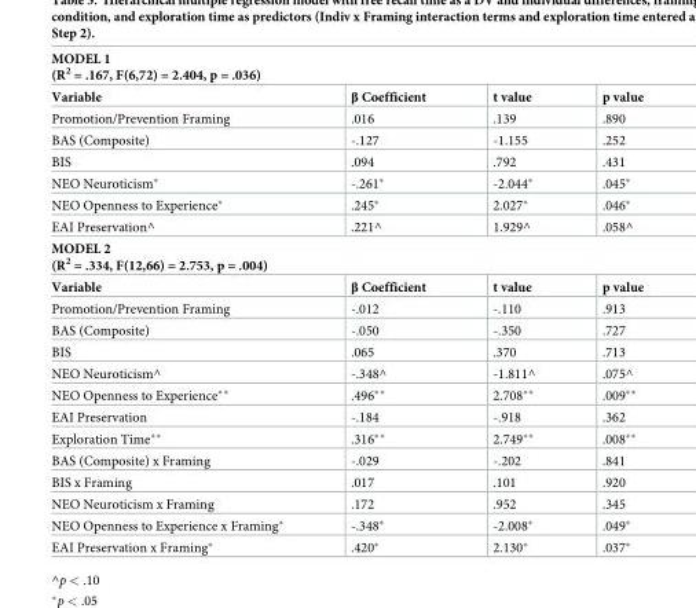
<table><tbody><tr><td colspan="4">MODEL 1 (R<sup>2</sup> = .167, F(6,72) = 2.404, p = .036)</td></tr><tr><td>Variable</td><td>β Coefficient</td><td>t value</td><td>p value</td></tr><tr><td>Promotion/Prevention Framing</td><td>.016</td><td>.139</td><td>.890</td></tr><tr><td>BAS (Composite)</td><td>-.127</td><td>-1.155</td><td>.252</td></tr><tr><td>BIS</td><td>.094</td><td>.792</td><td>.431</td></tr><tr><td>NEO Neuroticism*</td><td>-.261*</td><td>-2.044*</td><td>.045*</td></tr><tr><td>NEO Openness to Experience*</td><td>.245*</td><td>2.027*</td><td>.046*</td></tr><tr><td>EAI Preservation^</td><td>.221^</td><td>1.929^</td><td>.058^</td></tr><tr><td colspan="4">MODEL 2 (R<sup>2</sup> = .334, F(12,66) = 2.753, p = .004)</td></tr><tr><td>Variable</td><td>β Coefficient</td><td>t value</td><td>p value</td></tr><tr><td>Promotion/Prevention Framing</td><td>-.012</td><td>-.110</td><td>.913</td></tr><tr><td>BAS (Composite)</td><td>-.050</td><td>-.350</td><td>.727</td></tr><tr><td>BIS</td><td>.065</td><td>.370</td><td>.713</td></tr><tr><td>NEO Neuroticism^</td><td>-.348^</td><td>-1.811^</td><td>.075^</td></tr><tr><td>NEO Openness to Experience**</td><td>.496**</td><td>2.708**</td><td>.009**</td></tr><tr><td>EAI Preservation</td><td>-.184</td><td>-.918</td><td>.362</td></tr><tr><td>Exploration Time**</td><td>.316**</td><td>2.749**</td><td>.008**</td></tr><tr><td>BAS (Composite) x Framing</td><td>-.029</td><td>-.202</td><td>.841</td></tr><tr><td>BIS x Framing</td><td>.017</td><td>.101</td><td>.920</td></tr><tr><td>NEO Neuroticism x Framing</td><td>.172</td><td>.952</td><td>.345</td></tr><tr><td>NEO Openness to Experience x Framing*</td><td>-.348*</td><td>-2.008*</td><td>.049*</td></tr><tr><td>EAI Preservation x Framing*</td><td>.420*</td><td>2.130*</td><td>.037*</td></tr></tbody></table>